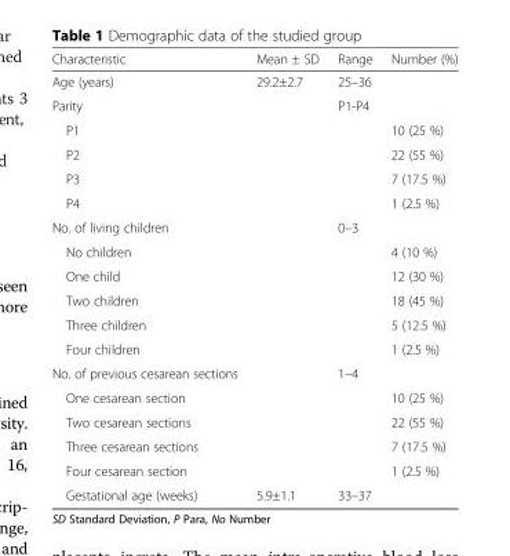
<table><thead><tr><td>Characteristic</td><td>Mean ± SD</td><td>Range</td><td>Number (%)</td></tr></thead><tbody><tr><td>Age (years)</td><td>29.2±2.7</td><td>25–36</td><td></td></tr><tr><td>Parity</td><td></td><td>P1-P4</td><td></td></tr><tr><td>P1</td><td></td><td></td><td>10 (25 %)</td></tr><tr><td>P2</td><td></td><td></td><td>22 (55 %)</td></tr><tr><td>P3</td><td></td><td></td><td>7 (17.5 %)</td></tr><tr><td>P4</td><td></td><td></td><td>1 (2.5 %)</td></tr><tr><td>No. of living children</td><td></td><td>0–3</td><td></td></tr><tr><td>No children</td><td></td><td></td><td>4 (10 %)</td></tr><tr><td>One child</td><td></td><td></td><td>12 (30 %)</td></tr><tr><td>Two children</td><td></td><td></td><td>18 (45 %)</td></tr><tr><td>Three children</td><td></td><td></td><td>5 (12.5 %)</td></tr><tr><td>Four children</td><td></td><td></td><td>1 (2.5 %)</td></tr><tr><td>No. of previous cesarean sections</td><td></td><td>1–4</td><td></td></tr><tr><td>One cesarean section</td><td></td><td></td><td>10 (25 %)</td></tr><tr><td>Two cesarean sections</td><td></td><td></td><td>22 (55 %)</td></tr><tr><td>Three cesarean sections</td><td></td><td></td><td>7 (17.5 %)</td></tr><tr><td>Four cesarean section</td><td></td><td></td><td>1 (2.5 %)</td></tr><tr><td>Gestational age (weeks)</td><td>5.9±1.1</td><td>33–37</td><td></td></tr></tbody></table>